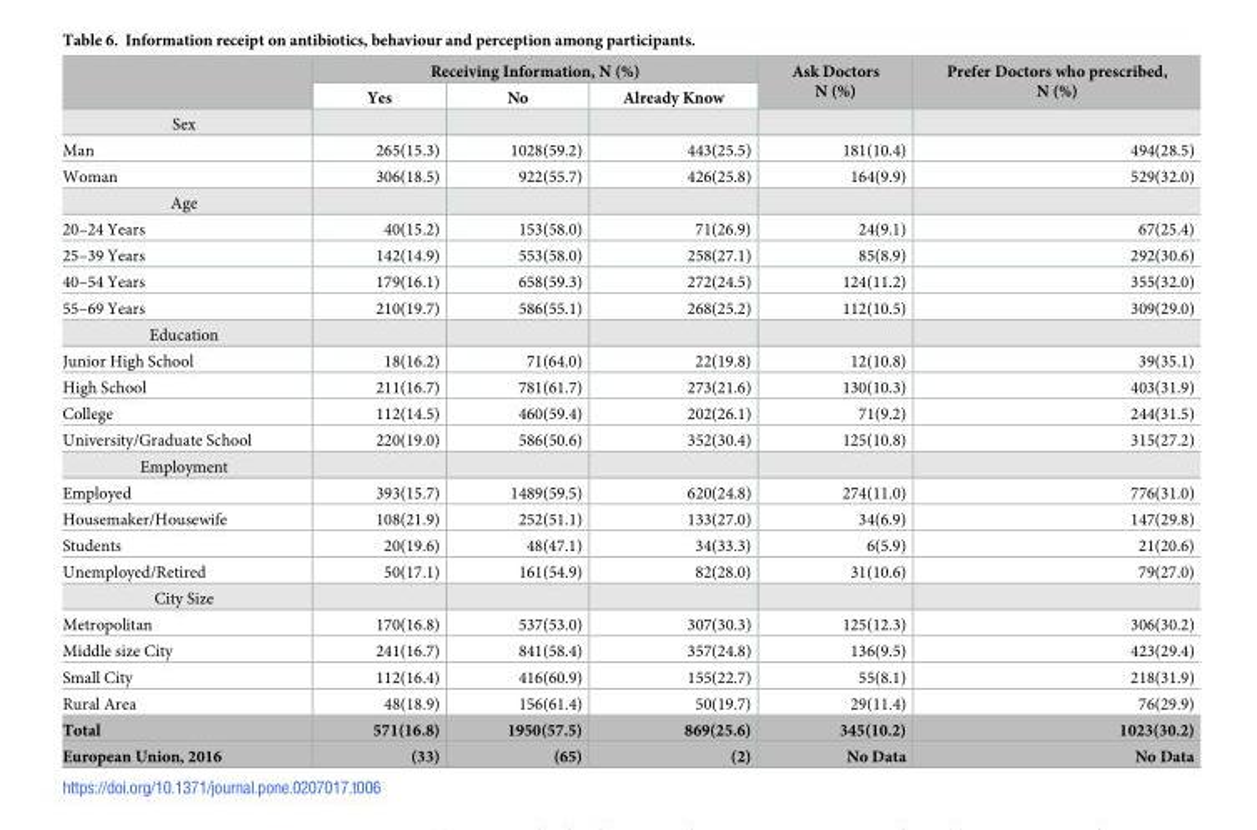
<table><thead><tr><td rowspan="2"></td><td colspan="3">Receiving Information, N (%)</td><td rowspan="2">Ask Doctors N (%)</td><td rowspan="2">Prefer Doctors who prescribed, N (%)</td></tr><tr><td>Yes</td><td>No</td><td>Already Know</td></tr></thead><tbody><tr><td colspan="6">Sex</td></tr><tr><td>Man</td><td>265(15.3)</td><td>1028(59.2)</td><td>443(25.5)</td><td>181(10.4)</td><td>494(28.5)</td></tr><tr><td>Woman</td><td>306(18.5)</td><td>922(55.7)</td><td>426(25.8)</td><td>164(9.9)</td><td>529(32.0)</td></tr><tr><td colspan="6">Age</td></tr><tr><td>20–24 Years</td><td>40(15.2)</td><td>153(58.0)</td><td>71(26.9)</td><td>24(9.1)</td><td>67(25.4)</td></tr><tr><td>25–39 Years</td><td>142(14.9)</td><td>553(58.0)</td><td>258(27.1)</td><td>85(8.9)</td><td>292(30.6)</td></tr><tr><td>40–54 Years</td><td>179(16.1)</td><td>658(59.3)</td><td>272(24.5)</td><td>124(11.2)</td><td>355(32.0)</td></tr><tr><td>55–69 Years</td><td>210(19.7)</td><td>586(55.1)</td><td>268(25.2)</td><td>112(10.5)</td><td>309(29.0)</td></tr><tr><td colspan="6">Education</td></tr><tr><td>Junior High School</td><td>18(16.2)</td><td>71(64.0)</td><td>22(19.8)</td><td>12(10.8)</td><td>39(35.1)</td></tr><tr><td>High School</td><td>211(16.7)</td><td>781(61.7)</td><td>273(21.6)</td><td>130(10.3)</td><td>403(31.9)</td></tr><tr><td>College</td><td>112(14.5)</td><td>460(59.4)</td><td>202(26.1)</td><td>71(9.2)</td><td>244(31.5)</td></tr><tr><td>University/Graduate School</td><td>220(19.0)</td><td>586(50.6)</td><td>352(30.4)</td><td>125(10.8)</td><td>315(27.2)</td></tr><tr><td colspan="6">Employment</td></tr><tr><td>Employed</td><td>393(15.7)</td><td>1489(59.5)</td><td>620(24.8)</td><td>274(11.0)</td><td>776(31.0)</td></tr><tr><td>Housemaker/Housewife</td><td>108(21.9)</td><td>252(51.1)</td><td>133(27.0)</td><td>34(6.9)</td><td>147(29.8)</td></tr><tr><td>Students</td><td>20(19.6)</td><td>48(47.1)</td><td>34(33.3)</td><td>6(5.9)</td><td>21(20.6)</td></tr><tr><td>Unemployed/Retired</td><td>50(17.1)</td><td>161(54.9)</td><td>82(28.0)</td><td>31(10.6)</td><td>79(27.0)</td></tr><tr><td colspan="6">City Size</td></tr><tr><td>Metropolitan</td><td>170(16.8)</td><td>537(53.0)</td><td>307(30.3)</td><td>125(12.3)</td><td>306(30.2)</td></tr><tr><td>Middle size City</td><td>241(16.7)</td><td>841(58.4)</td><td>357(24.8)</td><td>136(9.5)</td><td>423(29.4)</td></tr><tr><td>Small City</td><td>112(16.4)</td><td>416(60.9)</td><td>155(22.7)</td><td>55(8.1)</td><td>218(31.9)</td></tr><tr><td>Rural Area</td><td>48(18.9)</td><td>156(61.4)</td><td>50(19.7)</td><td>29(11.4)</td><td>76(29.9)</td></tr><tr><td>Total</td><td>571(16.8)</td><td>1950(57.5)</td><td>869(25.6)</td><td>345(10.2)</td><td>1023(30.2)</td></tr><tr><td>European Union, 2016</td><td>(33)</td><td>(65)</td><td>(2)</td><td>No Data</td><td>No Data</td></tr></tbody></table>